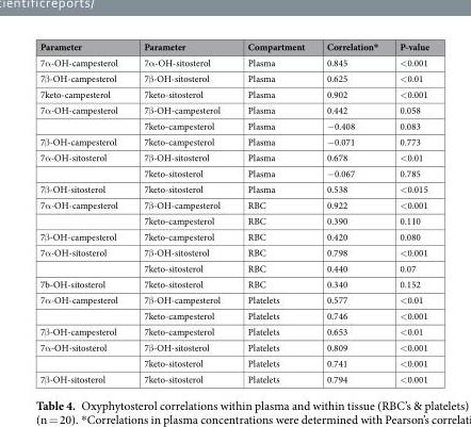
<table><thead><tr><td>Parameter</td><td>Parameter</td><td>Compartment</td><td>Correlation*</td><td>P-value</td></tr></thead><tbody><tr><td>7α-OH-campesterol</td><td>7α-OH-sitosterol</td><td>Plasma</td><td>0.845</td><td>&lt;0.001</td></tr><tr><td>7β-OH-campesterol</td><td>7β-OH-sitosterol</td><td>Plasma</td><td>0.625</td><td>&lt;0.01</td></tr><tr><td>7keto-campesterol</td><td>7keto-sitosterol</td><td>Plasma</td><td>0.902</td><td>&lt;0.001</td></tr><tr><td rowspan="2">7α-OH-campesterol</td><td>7β-OH-campesterol</td><td>Plasma</td><td>0.442</td><td>0.058</td></tr><tr><td>7keto-campesterol</td><td>Plasma</td><td>−0.408</td><td>0.083</td></tr><tr><td>7β-OH-campesterol</td><td>7keto-campesterol</td><td>Plasma</td><td>−0.071</td><td>0.773</td></tr><tr><td rowspan="2">7α-OH-sitosterol</td><td>7β-OH-sitosterol</td><td>Plasma</td><td>0.678</td><td>&lt;0.01</td></tr><tr><td>7keto-sitosterol</td><td>Plasma</td><td>−0.067</td><td>0.785</td></tr><tr><td>7β-OH-sitosterol</td><td>7keto-sitosterol</td><td>Plasma</td><td>0.538</td><td>&lt;0.015</td></tr><tr><td rowspan="2">7α-OH-campesterol</td><td>7β-OH-campesterol</td><td>RBC</td><td>0.922</td><td>&lt;0.001</td></tr><tr><td>7keto-campesterol</td><td>RBC</td><td>0.390</td><td>0.110</td></tr><tr><td>7β-OH-campesterol</td><td>7keto-campesterol</td><td>RBC</td><td>0.420</td><td>0.080</td></tr><tr><td rowspan="2">7α-OH-sitosterol</td><td>7β-OH-sitosterol</td><td>RBC</td><td>0.798</td><td>&lt;0.001</td></tr><tr><td>7keto-sitosterol</td><td>RBC</td><td>0.440</td><td>0.07</td></tr><tr><td>7b-OH-sitosterol</td><td>7keto-sitosterol</td><td>RBC</td><td>0.340</td><td>0.152</td></tr><tr><td rowspan="2">7α-OH-campesterol</td><td>7β-OH-campesterol</td><td>Platelets</td><td>0.577</td><td>&lt;0.01</td></tr><tr><td>7keto-campesterol</td><td>Platelets</td><td>0.746</td><td>&lt;0.001</td></tr><tr><td>7β-OH-campesterol</td><td>7keto-campesterol</td><td>Platelets</td><td>0.653</td><td>&lt;0.01</td></tr><tr><td rowspan="2">7α-OH-sitosterol</td><td>7β-OH-sitosterol</td><td>Platelets</td><td>0.809</td><td>&lt;0.001</td></tr><tr><td>7keto-sitosterol</td><td>Platelets</td><td>0.741</td><td>&lt;0.001</td></tr><tr><td>7β-OH-sitosterol</td><td>7keto-sitosterol</td><td>Platelets</td><td>0.794</td><td>&lt;0.001</td></tr></tbody></table>